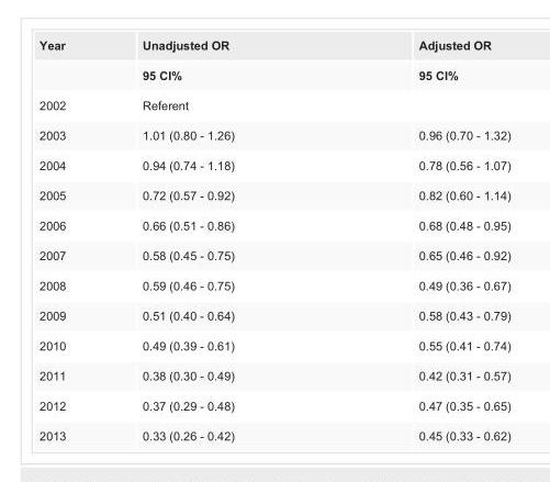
<table><tbody><tr><td rowspan="2">Year</td><td>Unadjusted OR</td><td>Adjusted OR</td></tr><tr><td>95 CI%</td><td>95 CI%</td></tr><tr><td>2002</td><td colspan="2">Referent</td></tr><tr><td>2003</td><td>1.01 (0.80 - 1.26)</td><td>0.96 (0.70 - 1.32)</td></tr><tr><td>2004</td><td>0.94 (0.74 - 1.18)</td><td>0.78 (0.56 - 1.07)</td></tr><tr><td>2005</td><td>0.72 (0.57 - 0.92)</td><td>0.82 (0.60 - 1.14)</td></tr><tr><td>2006</td><td>0.66 (0.51 - 0.86)</td><td>0.68 (0.48 - 0.95)</td></tr><tr><td>2007</td><td>0.58 (0.45 - 0.75)</td><td>0.65 (0.46 - 0.92)</td></tr><tr><td>2008</td><td>0.59 (0.46 - 0.75)</td><td>0.49 (0.36 - 0.67)</td></tr><tr><td>2009</td><td>0.51 (0.40 - 0.64)</td><td>0.58 (0.43 - 0.79)</td></tr><tr><td>2010</td><td>0.49 (0.39 - 0.61)</td><td>0.55 (0.41 - 0.74)</td></tr><tr><td>2011</td><td>0.38 (0.30 - 0.49)</td><td>0.42 (0.31 - 0.57)</td></tr><tr><td>2012</td><td>0.37 (0.29 - 0.48)</td><td>0.47 (0.35 - 0.65)</td></tr><tr><td>2013</td><td>0.33 (0.26 - 0.42)</td><td>0.45 (0.33 - 0.62)</td></tr></tbody></table>